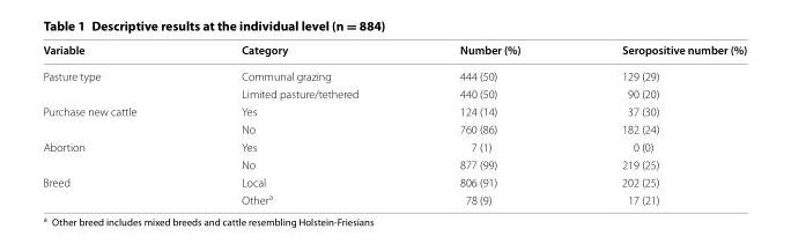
<table><thead><tr><td>Variable</td><td>Category</td><td>Number (%)</td><td>Seropositive number (%)</td></tr></thead><tbody><tr><td rowspan="2">Pasture type</td><td>Communal grazing</td><td>444 (50)</td><td>129 (29)</td></tr><tr><td>Limited pasture/tethered</td><td>440 (50)</td><td>90 (20)</td></tr><tr><td rowspan="2">Purchase new cattle</td><td>Yes</td><td>124 (14)</td><td>37 (30)</td></tr><tr><td>No</td><td>760 (86)</td><td>182 (24)</td></tr><tr><td rowspan="2">Abortion</td><td>Yes</td><td>7 (1)</td><td>0 (0)</td></tr><tr><td>No</td><td>877 (99)</td><td>219 (25)</td></tr><tr><td rowspan="2">Breed</td><td>Local</td><td>806 (91)</td><td>202 (25)</td></tr><tr><td>Other<sup>a</sup></td><td>78 (9)</td><td>17 (21)</td></tr></tbody></table>